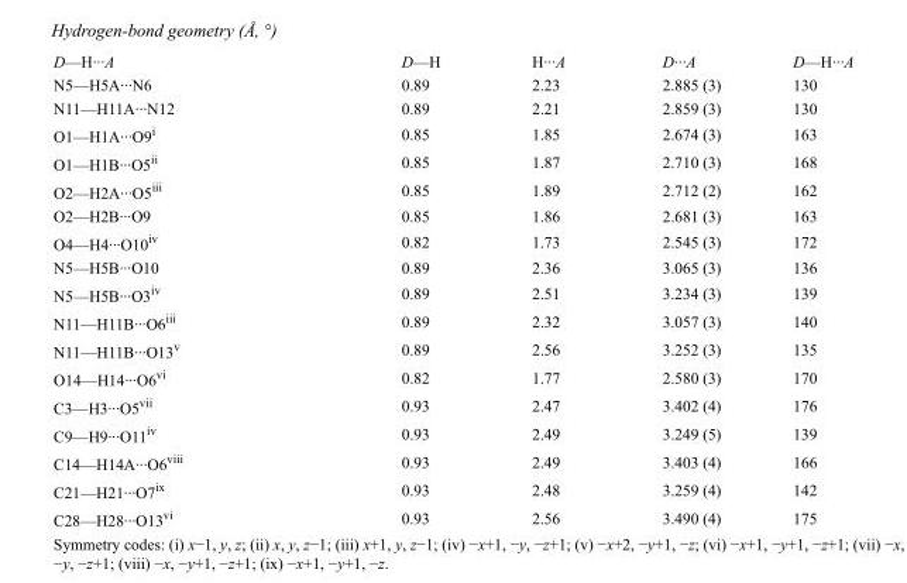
<table><tbody><tr><td>D—H···A</td><td>D—H</td><td>H···A</td><td>D···A</td><td>D—H···A</td></tr><tr><td>N5—H5A···N6</td><td>0.89</td><td>2.23</td><td>2.885 (3)</td><td>130</td></tr><tr><td>N11—H11A···N12</td><td>0.89</td><td>2.21</td><td>2.859 (3)</td><td>130</td></tr><tr><td>O1—H1A···O9<sup>i</sup></td><td>0.85</td><td>1.85</td><td>2.674 (3)</td><td>163</td></tr><tr><td>O1—H1B···O5<sup>ii</sup></td><td>0.85</td><td>1.87</td><td>2.710 (3)</td><td>168</td></tr><tr><td>O2—H2A···O5<sup>iii</sup></td><td>0.85</td><td>1.89</td><td>2.712 (2)</td><td>162</td></tr><tr><td>O2—H2B···O9</td><td>0.85</td><td>1.86</td><td>2.681 (3)</td><td>163</td></tr><tr><td>O4—H4···O10<sup>iv</sup></td><td>0.82</td><td>1.73</td><td>2.545 (3)</td><td>172</td></tr><tr><td>N5—H5B···O10</td><td>0.89</td><td>2.36</td><td>3.065 (3)</td><td>136</td></tr><tr><td>N5—H5B···O3<sup>iv</sup></td><td>0.89</td><td>2.51</td><td>3.234 (3)</td><td>139</td></tr><tr><td>N11—H11B···O6<sup>iii</sup></td><td>0.89</td><td>2.32</td><td>3.057 (3)</td><td>140</td></tr><tr><td>N11—H11B···O13<sup>v</sup></td><td>0.89</td><td>2.56</td><td>3.252 (3)</td><td>135</td></tr><tr><td>O14—H14···O6<sup>vi</sup></td><td>0.82</td><td>1.77</td><td>2.580 (3)</td><td>170</td></tr><tr><td>C3—H3···O5<sup>vii</sup></td><td>0.93</td><td>2.47</td><td>3.402 (4)</td><td>176</td></tr><tr><td>C9—H9···O11<sup>iv</sup></td><td>0.93</td><td>2.49</td><td>3.249 (5)</td><td>139</td></tr><tr><td>C14—H14A···O6<sup>viii</sup></td><td>0.93</td><td>2.49</td><td>3.403 (4)</td><td>166</td></tr><tr><td>C21—H21···O7<sup>ix</sup></td><td>0.93</td><td>2.48</td><td>3.259 (4)</td><td>142</td></tr><tr><td>C28—H28···O13<sup>vi</sup></td><td>0.93</td><td>2.56</td><td>3.490 (4)</td><td>175</td></tr></tbody></table>